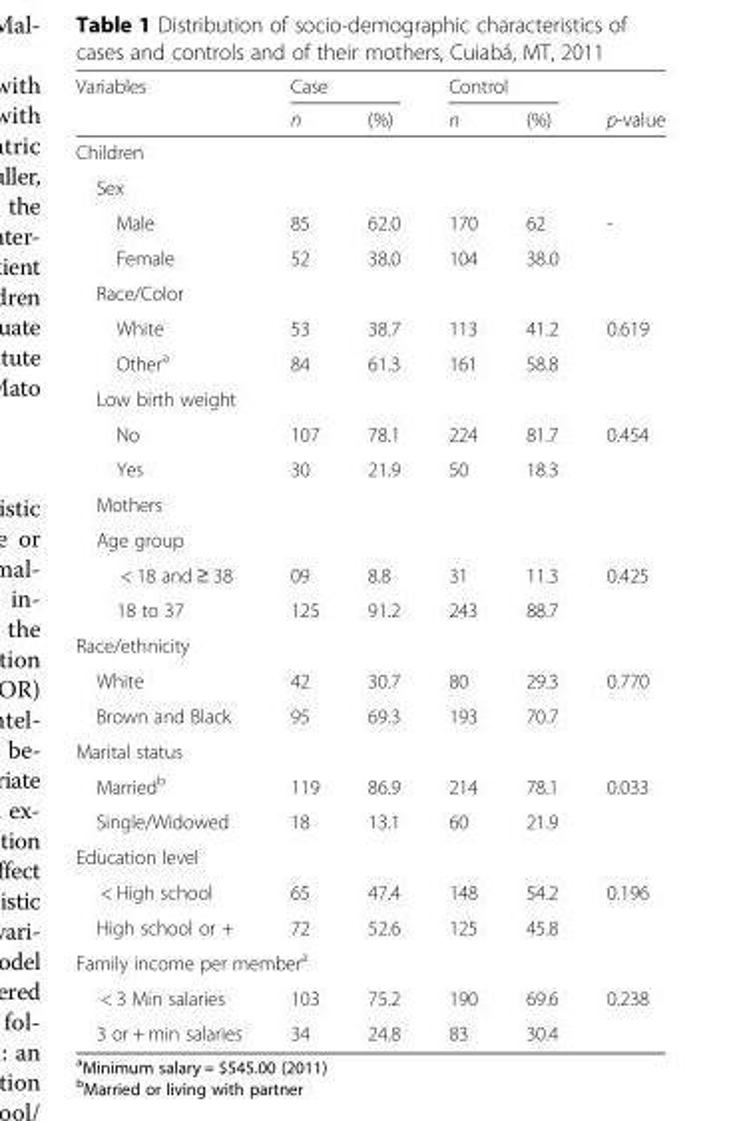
<table><thead><tr><td rowspan="2">Variables</td><td colspan="2">Case</td><td colspan="2">Control</td><td rowspan="2">p-value</td></tr><tr><td>n</td><td>(%)</td><td>n</td><td>(%)</td></tr></thead><tbody><tr><td colspan="6">Children</td></tr><tr><td colspan="6">Sex</td></tr><tr><td>Male</td><td>85</td><td>62.0</td><td>170</td><td>62</td><td rowspan="2">-</td></tr><tr><td>Female</td><td>52</td><td>38.0</td><td>104</td><td>38.0</td></tr><tr><td colspan="6">Race/Color</td></tr><tr><td>White</td><td>53</td><td>38.7</td><td>113</td><td>41.2</td><td rowspan="2">0.619</td></tr><tr><td>Other<sup>a</sup></td><td>84</td><td>61.3</td><td>161</td><td>58.8</td></tr><tr><td colspan="6">Low birth weight</td></tr><tr><td>No</td><td>107</td><td>78.1</td><td>224</td><td>81.7</td><td rowspan="2">0.454</td></tr><tr><td>Yes</td><td>30</td><td>21.9</td><td>50</td><td>18.3</td></tr><tr><td colspan="6">Mothers</td></tr><tr><td colspan="6">Age group</td></tr><tr><td>&lt; 18 and ≥ 38</td><td>09</td><td>8.8</td><td>31</td><td>11.3</td><td rowspan="2">0.425</td></tr><tr><td>18 to 37</td><td>125</td><td>91.2</td><td>243</td><td>88.7</td></tr><tr><td colspan="6">Race/ethnicity</td></tr><tr><td>White</td><td>42</td><td>30.7</td><td>80</td><td>29.3</td><td rowspan="2">0.770</td></tr><tr><td>Brown and Black</td><td>95</td><td>69.3</td><td>193</td><td>70.7</td></tr><tr><td colspan="6">Marital status</td></tr><tr><td>Married<sup>b</sup></td><td>119</td><td>86.9</td><td>214</td><td>78.1</td><td rowspan="2">0.033</td></tr><tr><td>Single/Widowed</td><td>18</td><td>13.1</td><td>60</td><td>21.9</td></tr><tr><td colspan="6">Education level</td></tr><tr><td>&lt; High school</td><td>65</td><td>47.4</td><td>148</td><td>54.2</td><td rowspan="2">0.196</td></tr><tr><td>High school or +</td><td>72</td><td>52.6</td><td>125</td><td>45.8</td></tr><tr><td colspan="6">Family income per member<sup>a</sup></td></tr><tr><td>&lt; 3 Min salaries</td><td>103</td><td>75.2</td><td>190</td><td>69.6</td><td rowspan="2">0.238</td></tr><tr><td>3 or + min salaries</td><td>34</td><td>24.8</td><td>83</td><td>30.4</td></tr></tbody></table>